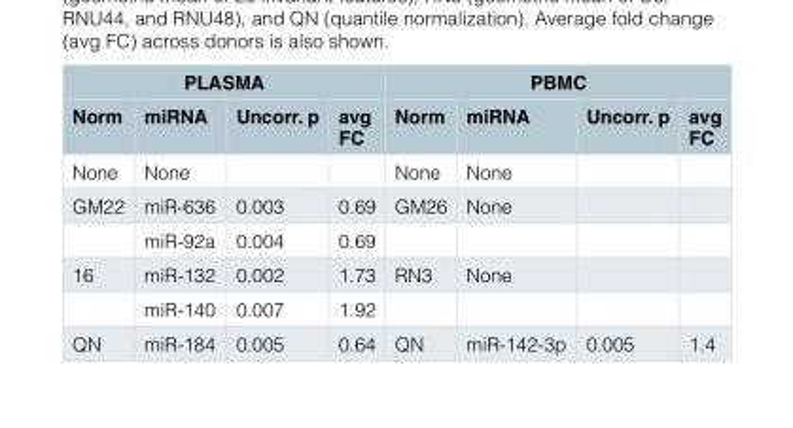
<table><thead><tr><td colspan="4">PLASMA</td><td colspan="4">PBMC</td></tr><tr><td>Norm</td><td>miRNA</td><td>Uncorr. p</td><td>avg FC</td><td>Norm</td><td>miRNA</td><td>Uncorr. p</td><td>avg FC</td></tr></thead><tbody><tr><td>None</td><td>None</td><td></td><td></td><td>None</td><td>None</td><td></td><td></td></tr><tr><td rowspan="2">GM22</td><td>miR-636</td><td>0.003</td><td>0.69</td><td>GM26</td><td>None</td><td></td><td></td></tr><tr><td>miR-92a</td><td>0.004</td><td>0.69</td><td></td><td></td><td></td><td></td></tr><tr><td rowspan="2">16</td><td>miR-132</td><td>0.002</td><td>1.73</td><td>RN3</td><td>None</td><td></td><td></td></tr><tr><td>miR-140</td><td>0.007</td><td>1.92</td><td></td><td></td><td></td><td></td></tr><tr><td>QN</td><td>miR-184</td><td>0.005</td><td>0.64</td><td>QN</td><td>miR-142-3p</td><td>0.005</td><td>1.4</td></tr></tbody></table>